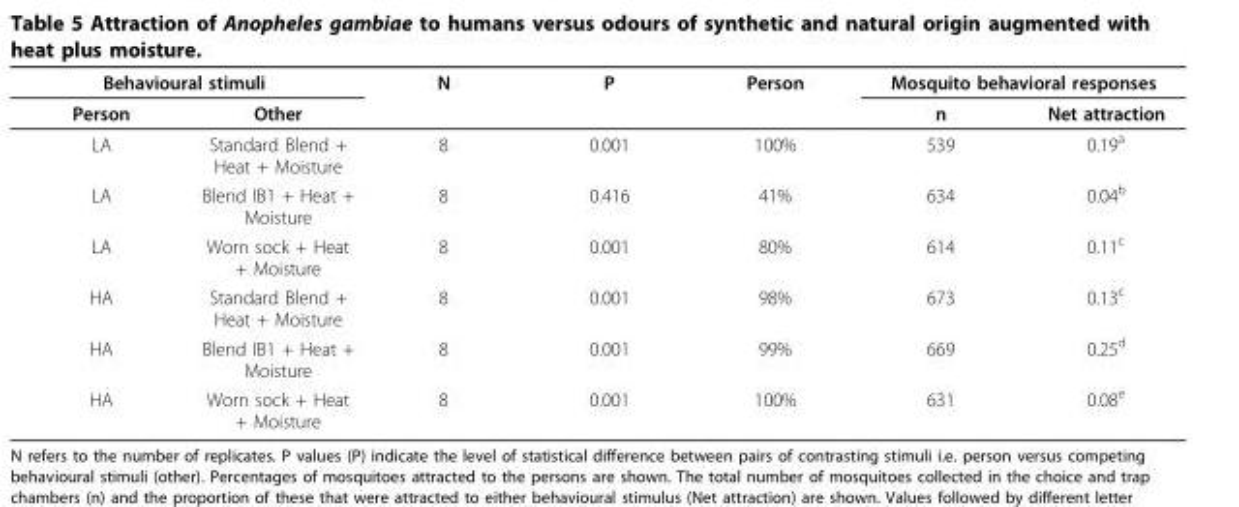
<table><thead><tr><td colspan="2">Behavioural stimuli</td><td rowspan="2">N</td><td rowspan="2">P</td><td rowspan="2">Person</td><td colspan="2">Mosquito behavioral responses</td></tr><tr><td>Person</td><td>Other</td><td>n</td><td>Net attraction</td></tr></thead><tbody><tr><td>LA</td><td>Standard Blend + Heat + Moisture</td><td>8</td><td>0.001</td><td>100%</td><td>539</td><td>0.19<sup>a</sup></td></tr><tr><td>LA</td><td>Blend IB1 + Heat + Moisture</td><td>8</td><td>0.416</td><td>41%</td><td>634</td><td>0.04<sup>b</sup></td></tr><tr><td>LA</td><td>Worn sock + Heat + Moisture</td><td>8</td><td>0.001</td><td>80%</td><td>614</td><td>0.11<sup>c</sup></td></tr><tr><td>HA</td><td>Standard Blend + Heat + Moisture</td><td>8</td><td>0.001</td><td>98%</td><td>673</td><td>0.13<sup>c</sup></td></tr><tr><td>HA</td><td>Blend IB1 + Heat + Moisture</td><td>8</td><td>0.001</td><td>99%</td><td>669</td><td>0.25<sup>d</sup></td></tr><tr><td>HA</td><td>Worn sock + Heat + Moisture</td><td>8</td><td>0.001</td><td>100%</td><td>631</td><td>0.08<sup>e</sup></td></tr></tbody></table>